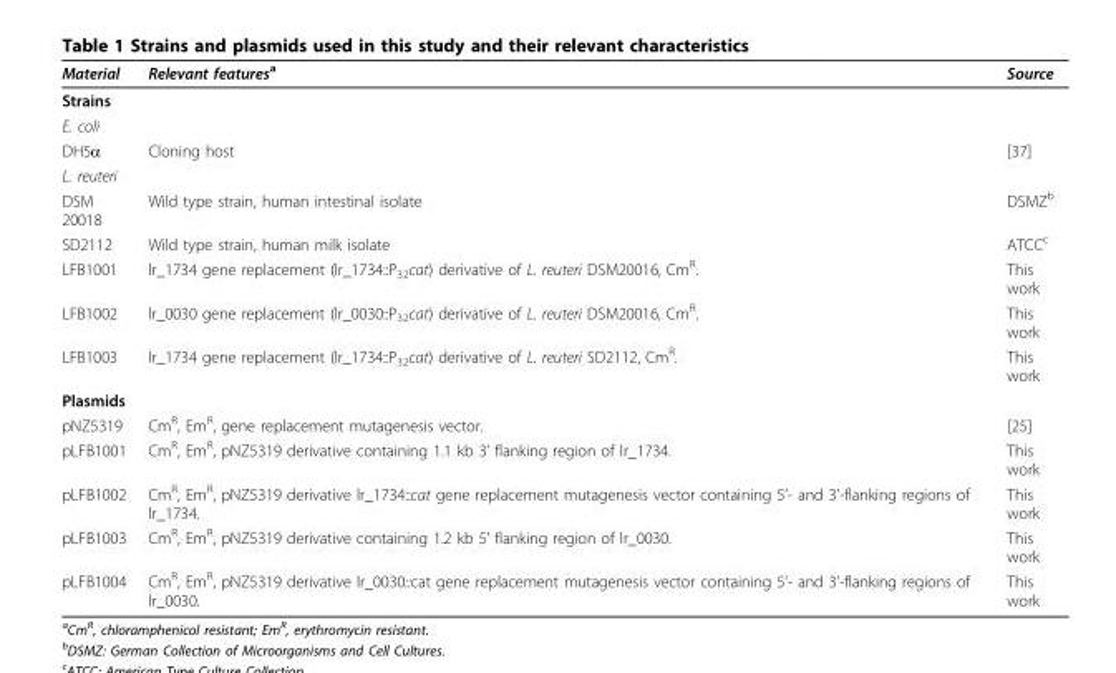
<table><thead><tr><td>Material</td><td>Relevant features<sup>a</sup></td><td>Source</td></tr></thead><tbody><tr><td colspan="3">Strains</td></tr><tr><td colspan="3">E. coli</td></tr><tr><td>DH5α</td><td>Cloning host</td><td>[37]</td></tr><tr><td colspan="3">L. reuteri</td></tr><tr><td>DSM 20018</td><td>Wild type strain, human intestinal isolate</td><td>DSMZ<sup>b</sup></td></tr><tr><td>SD2112</td><td>Wild type strain, human milk isolate</td><td>ATCC<sup>c</sup></td></tr><tr><td>LFB1001</td><td>lr_1734 gene replacement (lr_1734::P<sub>32</sub>cat) derivative of L. reuteri DSM20016, Cm<sup>R</sup>.</td><td>This work</td></tr><tr><td>LFB1002</td><td>lr_0030 gene replacement (lr_0030::P<sub>32</sub>cat) derivative of L. reuteri DSM20016, Cm<sup>R</sup>.</td><td>This work</td></tr><tr><td>LFB1003</td><td>lr_1734 gene replacement (lr_1734::P<sub>32</sub>cat) derivative of L. reuteri SD2112, Cm<sup>R</sup>.</td><td>This work</td></tr><tr><td colspan="3">Plasmids</td></tr><tr><td>pNZ5319</td><td>Cm<sup>R</sup>, Em<sup>R</sup>, gene replacement mutagenesis vector.</td><td>[25]</td></tr><tr><td>pLFB1001</td><td>Cm<sup>R</sup>, Em<sup>R</sup>, pNZ5319 derivative containing 1.1 kb 3’ flanking region of lr_1734.</td><td>This work</td></tr><tr><td>pLFB1002</td><td>Cm<sup>R</sup>, Em<sup>R</sup>, pNZ5319 derivative lr_1734::cat gene replacement mutagenesis vector containing 5’- and 3’-flanking regions of lr_1734.</td><td>This work</td></tr><tr><td>pLFB1003</td><td>Cm<sup>R</sup>, Em<sup>R</sup>, pNZ5319 derivative containing 1.2 kb 5’ flanking region of lr_0030.</td><td>This work</td></tr><tr><td>pLFB1004</td><td>Cm<sup>R</sup>, Em<sup>R</sup>, pNZ5319 derivative lr_0030::cat gene replacement mutagenesis vector containing 5’- and 3’-flanking regions of lr_0030.</td><td>This work</td></tr></tbody></table>